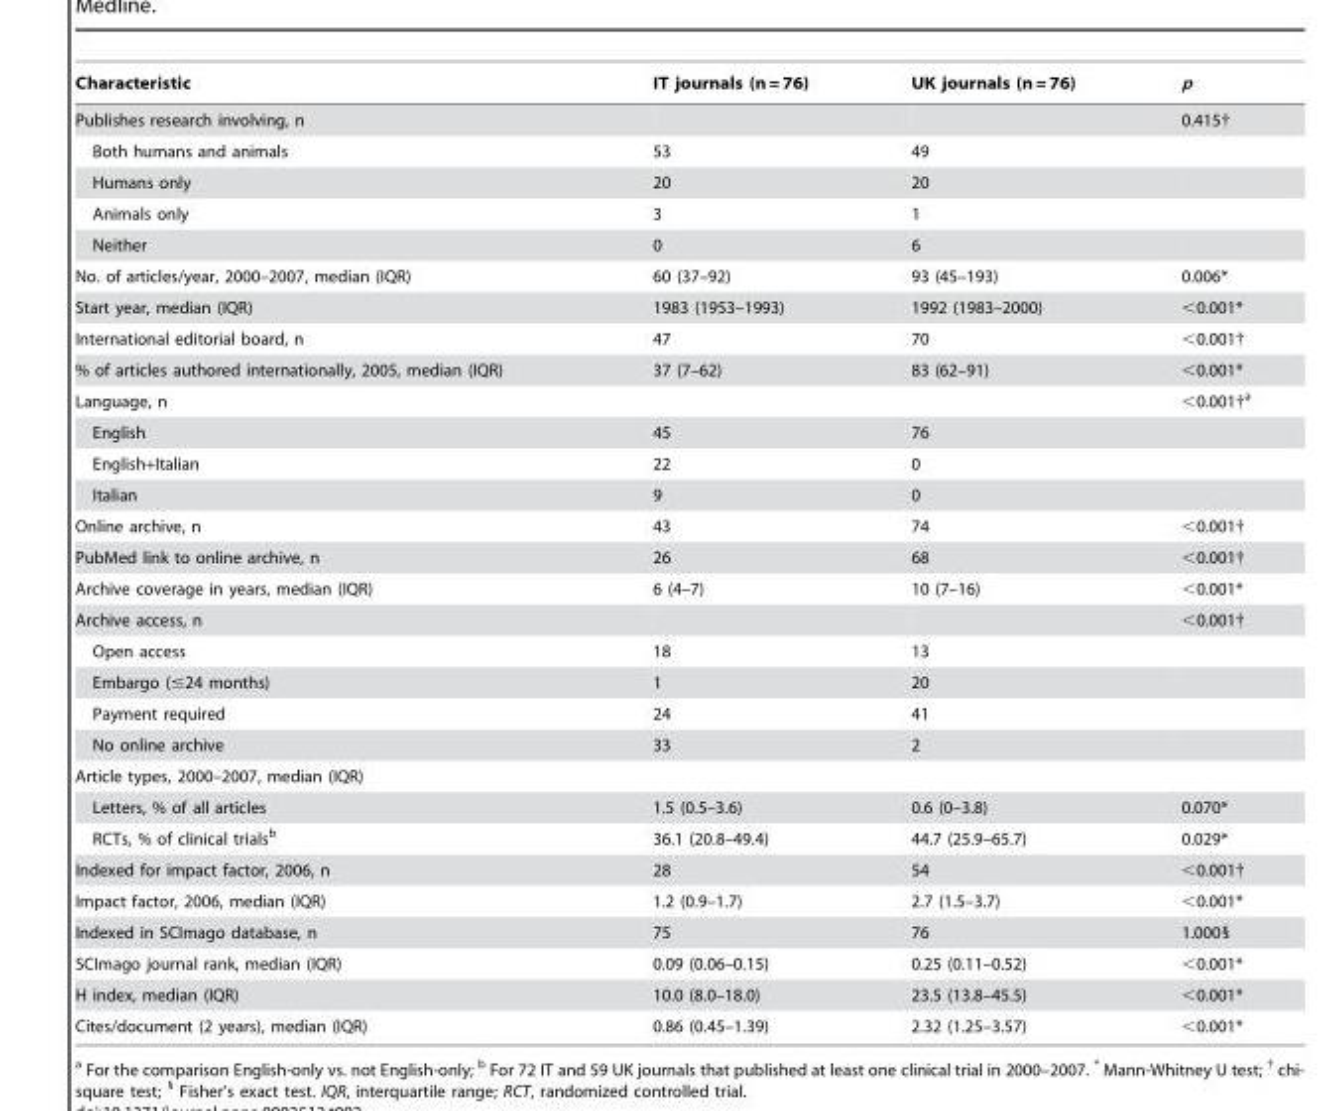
<table><thead><tr><td>Characteristic</td><td>IT journals (n = 76)</td><td>UK journals (n = 76)</td><td>p</td></tr></thead><tbody><tr><td>Publishes research involving, n</td><td></td><td></td><td>0.415†</td></tr><tr><td>Both humans and animals</td><td>53</td><td>49</td><td></td></tr><tr><td>Humans only</td><td>20</td><td>20</td><td></td></tr><tr><td>Animals only</td><td>3</td><td>1</td><td></td></tr><tr><td>Neither</td><td>0</td><td>6</td><td></td></tr><tr><td>No. of articles/year, 2000–2007, median (IQR)</td><td>60 (37–92)</td><td>93 (45–193)</td><td>0.006*</td></tr><tr><td>Start year, median (IQR)</td><td>1983 (1953–1993)</td><td>1992 (1983–2000)</td><td>&lt;0.001*</td></tr><tr><td>International editorial board, n</td><td>47</td><td>70</td><td>&lt;0.001†</td></tr><tr><td>% of articles authored internationally, 2005, median (IQR)</td><td>37 (7–62)</td><td>83 (62–91)</td><td>&lt;0.001*</td></tr><tr><td>Language, n</td><td></td><td></td><td>&lt;0.001†<sup>a</sup></td></tr><tr><td>English</td><td>45</td><td>76</td><td></td></tr><tr><td>English+Italian</td><td>22</td><td>0</td><td></td></tr><tr><td>Italian</td><td>9</td><td>0</td><td></td></tr><tr><td>Online archive, n</td><td>43</td><td>74</td><td>&lt;0.001†</td></tr><tr><td>PubMed link to online archive, n</td><td>26</td><td>68</td><td>&lt;0.001†</td></tr><tr><td>Archive coverage in years, median (IQR)</td><td>6 (4–7)</td><td>10 (7–16)</td><td>&lt;0.001*</td></tr><tr><td>Archive access, n</td><td></td><td></td><td>&lt;0.001†</td></tr><tr><td>Open access</td><td>18</td><td>13</td><td></td></tr><tr><td>Embargo (≤24 months)</td><td>1</td><td>20</td><td></td></tr><tr><td>Payment required</td><td>24</td><td>41</td><td></td></tr><tr><td>No online archive</td><td>33</td><td>2</td><td></td></tr><tr><td colspan="4">Article types, 2000–2007, median (IQR)</td></tr><tr><td>Letters, % of all articles</td><td>1.5 (0.5–3.6)</td><td>0.6 (0–3.8)</td><td>0.070*</td></tr><tr><td>RCTs, % of clinical trials<sup>b</sup></td><td>36.1 (20.8–49.4)</td><td>44.7 (25.9–65.7)</td><td>0.029*</td></tr><tr><td>Indexed for impact factor, 2006, n</td><td>28</td><td>54</td><td>&lt;0.001†</td></tr><tr><td>Impact factor, 2006, median (IQR)</td><td>1.2 (0.9–1.7)</td><td>2.7 (1.5–3.7)</td><td>&lt;0.001*</td></tr><tr><td>Indexed in SCImago database, n</td><td>75</td><td>76</td><td>1.000§</td></tr><tr><td>SCImago journal rank, median (IQR)</td><td>0.09 (0.06–0.15)</td><td>0.25 (0.11–0.52)</td><td>&lt;0.001*</td></tr><tr><td>H index, median (IQR)</td><td>10.0 (8.0–18.0)</td><td>23.5 (13.8–45.5)</td><td>&lt;0.001*</td></tr><tr><td>Cites/document (2 years), median (IQR)</td><td>0.86 (0.45–1.39)</td><td>2.32 (1.25–3.57)</td><td>&lt;0.001*</td></tr></tbody></table>